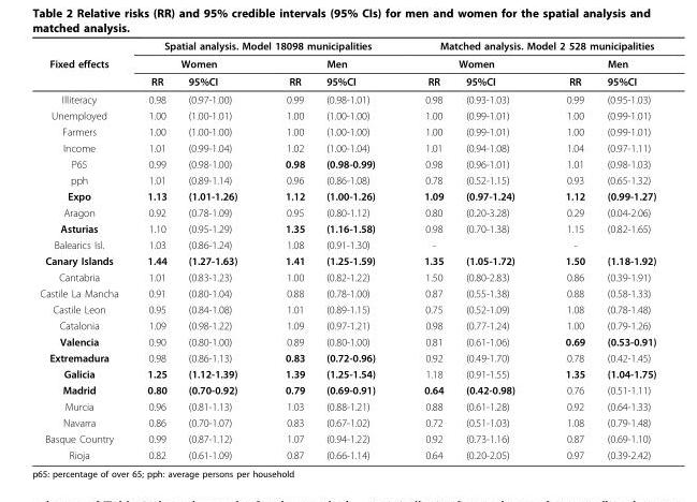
<table><thead><tr><td rowspan="3">Fixed effects</td><td colspan="4">Spatial analysis. Model 18098 municipalities</td><td colspan="4">Matched analysis. Model 2 528 municipalities</td></tr><tr><td colspan="2">Women</td><td colspan="2">Men</td><td colspan="2">Women</td><td colspan="2">Men</td></tr><tr><td>RR</td><td>95%CI</td><td>RR</td><td>95%CI</td><td>RR</td><td>95%CI</td><td>RR</td><td>95%CI</td></tr></thead><tbody><tr><td>Illiteracy</td><td>0.98</td><td>(0.97-1.00)</td><td>0.99</td><td>(0.98-1.01)</td><td>0.98</td><td>(0.93-1.03)</td><td>0.99</td><td>(0.95-1.03)</td></tr><tr><td>Unemployed</td><td>1.00</td><td>(1.00-1.01)</td><td>1.00</td><td>(1.00-1.00)</td><td>1.00</td><td>(0.99-1.01)</td><td>1.00</td><td>(0.99-1.01)</td></tr><tr><td>Farmers</td><td>1.00</td><td>(1.00-1.00)</td><td>1.00</td><td>(1.00-1.00)</td><td>1.00</td><td>(0.99-1.01)</td><td>1.00</td><td>(0.99-1.01)</td></tr><tr><td>Income</td><td>1.01</td><td>(0.99-1.04)</td><td>1.02</td><td>(1.00-1.04)</td><td>1.01</td><td>(0.94-1.08)</td><td>1.04</td><td>(0.97-1.11)</td></tr><tr><td>P65</td><td>0.99</td><td>(0.98-1.00)</td><td>0.98</td><td>(0.98-0.99)</td><td>0.98</td><td>(0.96-1.01)</td><td>1.01</td><td>(0.98-1.03)</td></tr><tr><td>pph</td><td>1.01</td><td>(0.89-1.14)</td><td>0.96</td><td>(0.86-1.08)</td><td>0.78</td><td>(0.52-1.15)</td><td>0.93</td><td>(0.65-1.32)</td></tr><tr><td>Expo</td><td>1.13</td><td>(1.01-1.26)</td><td>1.12</td><td>(1.00-1.26)</td><td>1.09</td><td>(0.97-1.24)</td><td>1.12</td><td>(0.99-1.27)</td></tr><tr><td>Aragon</td><td>0.92</td><td>(0.78-1.09)</td><td>0.95</td><td>(0.80-1.12)</td><td>0.80</td><td>(0.20-3.28)</td><td>0.29</td><td>(0.04-2.06)</td></tr><tr><td>Asturias</td><td>1.10</td><td>(0.95-1.29)</td><td>1.35</td><td>(1.16-1.58)</td><td>0.98</td><td>(0.70-1.38)</td><td>1.15</td><td>(0.82-1.65)</td></tr><tr><td>Balearics Isl.</td><td>1.03</td><td>(0.86-1.24)</td><td>1.08</td><td>(0.91-1.30)</td><td>-</td><td></td><td>-</td><td></td></tr><tr><td>Canary Islands</td><td>1.44</td><td>(1.27-1.63)</td><td>1.41</td><td>(1.25-1.59)</td><td>1.35</td><td>(1.05-1.72)</td><td>1.50</td><td>(1.18-1.92)</td></tr><tr><td>Cantabria</td><td>1.01</td><td>(0.83-1.23)</td><td>1.00</td><td>(0.82-1.22)</td><td>1.50</td><td>(0.80-2.83)</td><td>0.86</td><td>(0.39-1.91)</td></tr><tr><td>Castile La Mancha</td><td>0.91</td><td>(0.80-1.04)</td><td>0.88</td><td>(0.78-1.00)</td><td>0.87</td><td>(0.55-1.38)</td><td>0.88</td><td>(0.58-1.33)</td></tr><tr><td>Castile Leon</td><td>0.95</td><td>(0.84-1.08)</td><td>1.01</td><td>(0.89-1.15)</td><td>0.75</td><td>(0.52-1.09)</td><td>1.08</td><td>(0.78-1.48)</td></tr><tr><td>Catalonia</td><td>1.09</td><td>(0.98-1.22)</td><td>1.09</td><td>(0.97-1.21)</td><td>0.98</td><td>(0.77-1.24)</td><td>1.00</td><td>(0.79-1.26)</td></tr><tr><td>Valencia</td><td>0.90</td><td>(0.80-1.00)</td><td>0.89</td><td>(0.80-1.00)</td><td>0.81</td><td>(0.61-1.06)</td><td>0.69</td><td>(0.53-0.91)</td></tr><tr><td>Extremadura</td><td>0.98</td><td>(0.86-1.13)</td><td>0.83</td><td>(0.72-0.96)</td><td>0.92</td><td>(0.49-1.70)</td><td>0.78</td><td>(0.42-1.45)</td></tr><tr><td>Galicia</td><td>1.25</td><td>(1.12-1.39)</td><td>1.39</td><td>(1.25-1.54)</td><td>1.18</td><td>(0.91-1.55)</td><td>1.35</td><td>(1.04-1.75)</td></tr><tr><td>Madrid</td><td>0.80</td><td>(0.70-0.92)</td><td>0.79</td><td>(0.69-0.91)</td><td>0.64</td><td>(0.42-0.98)</td><td>0.76</td><td>(0.51-1.11)</td></tr><tr><td>Murcia</td><td>0.96</td><td>(0.81-1.13)</td><td>1.03</td><td>(0.88-1.21)</td><td>0.88</td><td>(0.61-1.28)</td><td>0.92</td><td>(0.64-1.33)</td></tr><tr><td>Navarra</td><td>0.86</td><td>(0.70-1.07)</td><td>0.83</td><td>(0.67-1.02)</td><td>0.72</td><td>(0.51-1.03)</td><td>1.08</td><td>(0.79-1.48)</td></tr><tr><td>Basque Country</td><td>0.99</td><td>(0.87-1.12)</td><td>1.07</td><td>(0.94-1.22)</td><td>0.92</td><td>(0.73-1.16)</td><td>0.87</td><td>(0.69-1.10)</td></tr><tr><td>Rioja</td><td>0.82</td><td>(0.61-1.09)</td><td>0.87</td><td>(0.66-1.14)</td><td>0.64</td><td>(0.20-2.05)</td><td>0.97</td><td>(0.39-2.42)</td></tr></tbody></table>